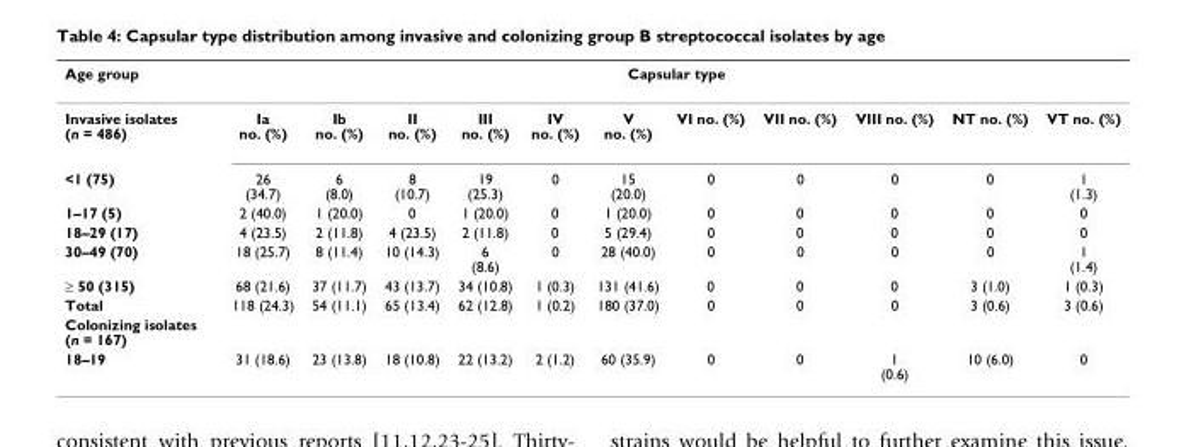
<table><thead><tr><td rowspan="2">Age group Invasive isolates (n = 486)</td><td colspan="11">Capsular type</td></tr><tr><td>Ia no. (%)</td><td>Ib no. (%)</td><td>II no. (%)</td><td>III no. (%)</td><td>IV no. (%)</td><td>V no. (%)</td><td>VI no. (%)</td><td>VII no. (%)</td><td>VIII no. (%)</td><td>NT no. (%)</td><td>VT no. (%)</td></tr></thead><tbody><tr><td>&lt;1 (75)</td><td>26 (34.7)</td><td>6 (8.0)</td><td>8 (10.7)</td><td>19 (25.3)</td><td>0</td><td>15 (20.0)</td><td>0</td><td>0</td><td>0</td><td>0</td><td>1 (1.3)</td></tr><tr><td>1–17 (5)</td><td>2 (40.0)</td><td>1 (20.0)</td><td>0</td><td>1 (20.0)</td><td>0</td><td>1 (20.0)</td><td>0</td><td>0</td><td>0</td><td>0</td><td>0</td></tr><tr><td>18–29 (17)</td><td>4 (23.5)</td><td>2 (11.8)</td><td>4 (23.5)</td><td>2 (11.8)</td><td>0</td><td>5 (29.4)</td><td>0</td><td>0</td><td>0</td><td>0</td><td>0</td></tr><tr><td>30–49 (70)</td><td>18 (25.7)</td><td>8 (11.4)</td><td>10 (14.3)</td><td>6 (8.6)</td><td>0</td><td>28 (40.0)</td><td>0</td><td>0</td><td>0</td><td>0</td><td>1 (1.4)</td></tr><tr><td>≥ 50 (315)</td><td>68 (21.6)</td><td>37 (11.7)</td><td>43 (13.7)</td><td>34 (10.8)</td><td>1 (0.3)</td><td>131 (41.6)</td><td>0</td><td>0</td><td>0</td><td>3 (1.0)</td><td>1 (0.3)</td></tr><tr><td>Total</td><td>118 (24.3)</td><td>54 (11.1)</td><td>65 (13.4)</td><td>62 (12.8)</td><td>1 (0.2)</td><td>180 (37.0)</td><td>0</td><td>0</td><td>0</td><td>3 (0.6)</td><td>3 (0.6)</td></tr><tr><td colspan="12">Colonizing isolates (n = 167)</td></tr><tr><td>18–19</td><td>31 (18.6)</td><td>23 (13.8)</td><td>18 (10.8)</td><td>22 (13.2)</td><td>2 (1.2)</td><td>60 (35.9)</td><td>0</td><td>0</td><td>1 (0.6)</td><td>10 (6.0)</td><td>0</td></tr></tbody></table>